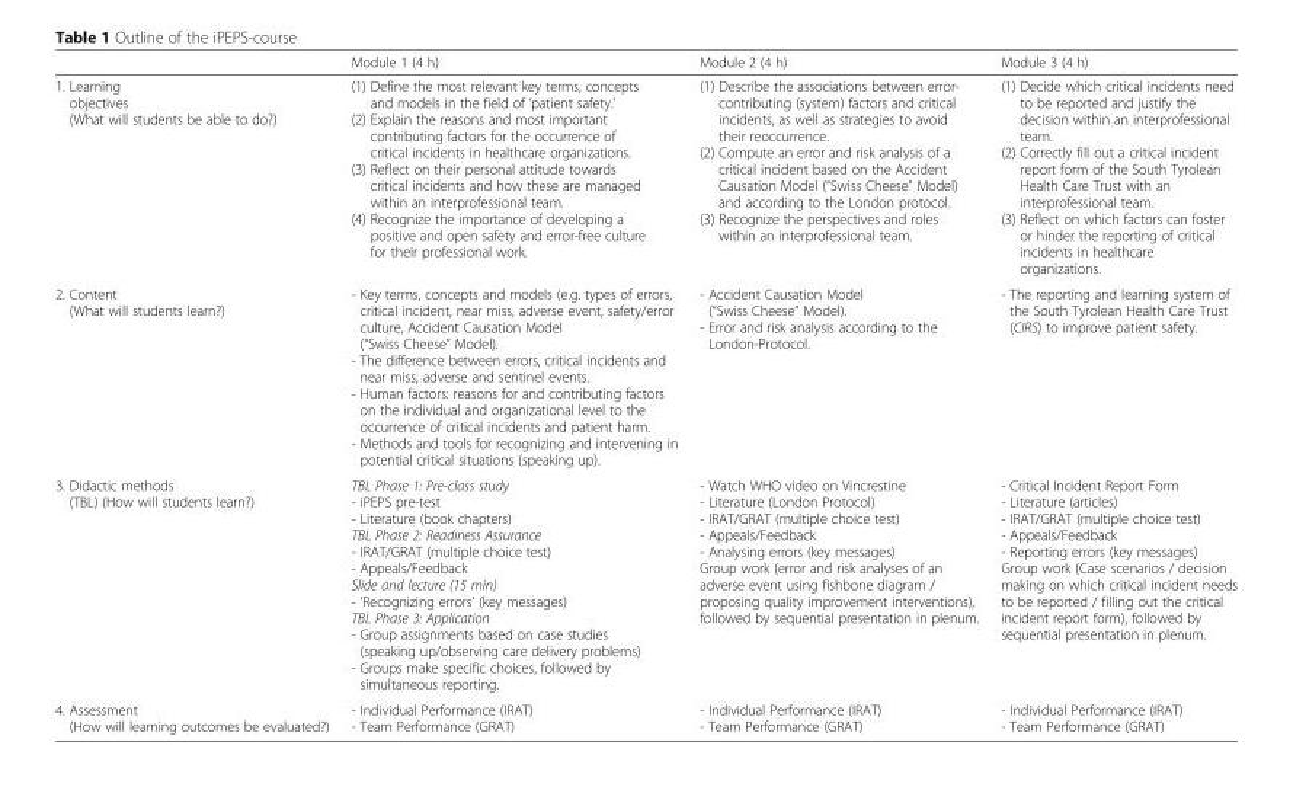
<table><thead><tr><td></td><td>Module 1 (4 h)</td><td>Module 2 (4 h)</td><td>Module 3 (4 h)</td></tr></thead><tbody><tr><td>1. Learning objectives (What will students be able to do?)</td><td>(1) Define the most relevant key terms, concepts and models in the field of ‘patient safety.’ (2) Explain the reasons and most important contributing factors for the occurrence of critical incidents in healthcare organizations. (3) Reflect on their personal attitude towards critical incidents and how these are managed within an interprofessional team. (4) Recognize the importance of developing a positive and open safety and error-free culture for their professional work.</td><td>(1) Describe the associations between error- contributing (system) factors and critical incidents, as well as strategies to avoid their reoccurrence. (2) Compute an error and risk analysis of a critical incident based on the Accident Causation Model (“Swiss Cheese” Model) and according to the London protocol. (3) Recognize the perspectives and roles within an interprofessional team.</td><td>(1) Decide which critical incidents need to be reported and justify the decision within an interprofessional team. (2) Correctly fill out a critical incident report form of the South Tyrolean Health Care Trust with an interprofessional team. (3) Reflect on which factors can foster or hinder the reporting of critical incidents in healthcare organizations.</td></tr><tr><td>2. Content (What will students learn?)</td><td>- Key terms, concepts and models (e.g. types of errors, critical incident, near miss, adverse event, safety/error culture, Accident Causation Model (“Swiss Cheese” Model). - The difference between errors, critical incidents and near miss, adverse and sentinel events. - Human factors: reasons for and contributing factors on the individual and organizational level to the occurrence of critical incidents and patient harm. - Methods and tools for recognizing and intervening in potential critical situations (speaking up).</td><td>- Accident Causation Model (“Swiss Cheese” Model). - Error and risk analysis according to the London-Protocol.</td><td>- The reporting and learning system of the South Tyrolean Health Care Trust (CIRS) to improve patient safety.</td></tr><tr><td>3. Didactic methods (TBL) (How will students learn?)</td><td>TBL Phase 1: Pre-class study - iPEPS pre-test - Literature (book chapters) TBL Phase 2: Readiness Assurance - IRAT/GRAT (multiple choice test) - Appeals/Feedback Slide and lecture (15 min) - ‘Recognizing errors’ (key messages) TBL Phase 3: Application - Group assignments based on case studies (speaking up/observing care delivery problems) - Groups make specific choices, followed by simultaneous reporting.</td><td>- Watch WHO video on Vincrestine - Literature (London Protocol) - IRAT/GRAT (multiple choice test) - Appeals/Feedback - Analysing errors (key messages) Group work (error and risk analyses of an adverse event using fishbone diagram / proposing quality improvement interventions), followed by sequential presentation in plenum.</td><td>- Critical Incident Report Form - Literature (articles) - IRAT/GRAT (multiple choice test) - Appeals/Feedback - Reporting errors (key messages) Group work (Case scenarios / decision making on which critical incident needs to be reported / filling out the critical incident report form), followed by sequential presentation in plenum.</td></tr><tr><td>4. Assessment (How will learning outcomes be evaluated?)</td><td>- Individual Performance (IRAT) - Team Performance (GRAT)</td><td>- Individual Performance (IRAT) - Team Performance (GRAT)</td><td>- Individual Performance (IRAT) - Team Performance (GRAT)</td></tr></tbody></table>